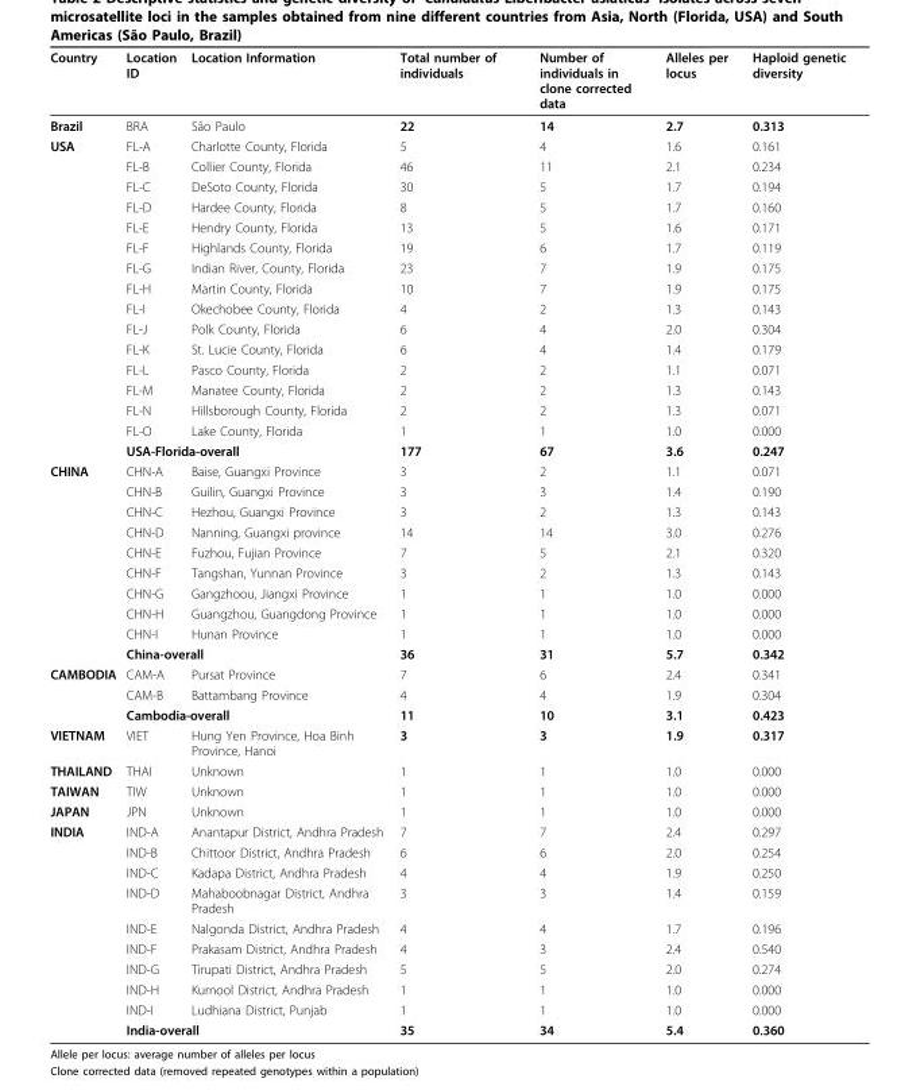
<table><thead><tr><td>Country</td><td>Location ID</td><td>Location Information</td><td>Total number of individuals</td><td>Number of individuals in clone corrected data</td><td>Alleles per locus</td><td>Haploid genetic diversity</td></tr></thead><tbody><tr><td>Brazil</td><td>BRA</td><td>São Paulo</td><td>22</td><td>14</td><td>2.7</td><td>0.313</td></tr><tr><td rowspan="16">USA</td><td>FL-A</td><td>Charlotte County, Florida</td><td>5</td><td>4</td><td>1.6</td><td>0.161</td></tr><tr><td>FL-B</td><td>Collier County, Florida</td><td>46</td><td>11</td><td>2.1</td><td>0.234</td></tr><tr><td>FL-C</td><td>DeSoto County, Florida</td><td>30</td><td>5</td><td>1.7</td><td>0.194</td></tr><tr><td>FL-D</td><td>Hardee County, Florida</td><td>8</td><td>5</td><td>1.7</td><td>0.160</td></tr><tr><td>FL-E</td><td>Hendry County, Florida</td><td>13</td><td>5</td><td>1.6</td><td>0.171</td></tr><tr><td>FL-F</td><td>Highlands County, Florida</td><td>19</td><td>6</td><td>1.7</td><td>0.119</td></tr><tr><td>FL-G</td><td>Indian River, County, Florida</td><td>23</td><td>7</td><td>1.9</td><td>0.175</td></tr><tr><td>FL-H</td><td>Martin County, Florida</td><td>10</td><td>7</td><td>1.9</td><td>0.175</td></tr><tr><td>FL-I</td><td>Okechobee County, Florida</td><td>4</td><td>2</td><td>1.3</td><td>0.143</td></tr><tr><td>FL-J</td><td>Polk County, Florida</td><td>6</td><td>4</td><td>2.0</td><td>0.304</td></tr><tr><td>FL-K</td><td>St. Lucie County, Florida</td><td>6</td><td>4</td><td>1.4</td><td>0.179</td></tr><tr><td>FL-L</td><td>Pasco County, Florida</td><td>2</td><td>2</td><td>1.1</td><td>0.071</td></tr><tr><td>FL-M</td><td>Manatee County, Florida</td><td>2</td><td>2</td><td>1.3</td><td>0.143</td></tr><tr><td>FL-N</td><td>Hillsborough County, Florida</td><td>2</td><td>2</td><td>1.3</td><td>0.071</td></tr><tr><td>FL-O</td><td>Lake County, Florida</td><td>1</td><td>1</td><td>1.0</td><td>0.000</td></tr><tr><td colspan="2">USA-Florida-overall</td><td>177</td><td>67</td><td>3.6</td><td>0.247</td></tr><tr><td rowspan="10">CHINA</td><td>CHN-A</td><td>Baise, Guangxi Province</td><td>3</td><td>2</td><td>1.1</td><td>0.071</td></tr><tr><td>CHN-B</td><td>Guilin, Guangxi Province</td><td>3</td><td>3</td><td>1.4</td><td>0.190</td></tr><tr><td>CHN-C</td><td>Hezhou, Guangxi Province</td><td>3</td><td>2</td><td>1.3</td><td>0.143</td></tr><tr><td>CHN-D</td><td>Nanning, Guangxi province</td><td>14</td><td>14</td><td>3.0</td><td>0.276</td></tr><tr><td>CHN-E</td><td>Fuzhou, Fujian Province</td><td>7</td><td>5</td><td>2.1</td><td>0.320</td></tr><tr><td>CHN-F</td><td>Tangshan, Yunnan Province</td><td>3</td><td>2</td><td>1.3</td><td>0.143</td></tr><tr><td>CHN-G</td><td>Gangzhoou, Jiangxi Province</td><td>1</td><td>1</td><td>1.0</td><td>0.000</td></tr><tr><td>CHN-H</td><td>Guangzhou, Guangdong Province</td><td>1</td><td>1</td><td>1.0</td><td>0.000</td></tr><tr><td>CHN-I</td><td>Hunan Province</td><td>1</td><td>1</td><td>1.0</td><td>0.000</td></tr><tr><td colspan="2">China-overall</td><td>36</td><td>31</td><td>5.7</td><td>0.342</td></tr><tr><td rowspan="3">CAMBODIA</td><td>CAM-A</td><td>Pursat Province</td><td>7</td><td>6</td><td>2.4</td><td>0.341</td></tr><tr><td>CAM-B</td><td>Battambang Province</td><td>4</td><td>4</td><td>1.9</td><td>0.304</td></tr><tr><td colspan="2">Cambodia-overall</td><td>11</td><td>10</td><td>3.1</td><td>0.423</td></tr><tr><td>VIETNAM</td><td>VIET</td><td>Hung Yen Province, Hoa Binh Province, Hanoi</td><td>3</td><td>3</td><td>1.9</td><td>0.317</td></tr><tr><td>THAILAND</td><td>THAI</td><td>Unknown</td><td>1</td><td>1</td><td>1.0</td><td>0.000</td></tr><tr><td>TAIWAN</td><td>TIW</td><td>Unknown</td><td>1</td><td>1</td><td>1.0</td><td>0.000</td></tr><tr><td>JAPAN</td><td>JPN</td><td>Unknown</td><td>1</td><td>1</td><td>1.0</td><td>0.000</td></tr><tr><td rowspan="10">INDIA</td><td>IND-A</td><td>Anantapur District, Andhra Pradesh</td><td>7</td><td>7</td><td>2.4</td><td>0.297</td></tr><tr><td>IND-B</td><td>Chittoor District, Andhra Pradesh</td><td>6</td><td>6</td><td>2.0</td><td>0.254</td></tr><tr><td>IND-C</td><td>Kadapa District, Andhra Pradesh</td><td>4</td><td>4</td><td>1.9</td><td>0.250</td></tr><tr><td>IND-D</td><td>Mahaboobnagar District, Andhra Pradesh</td><td>3</td><td>3</td><td>1.4</td><td>0.159</td></tr><tr><td>IND-E</td><td>Nalgonda District, Andhra Pradesh</td><td>4</td><td>4</td><td>1.7</td><td>0.196</td></tr><tr><td>IND-F</td><td>Prakasam District, Andhra Pradesh</td><td>4</td><td>3</td><td>2.4</td><td>0.540</td></tr><tr><td>IND-G</td><td>Tirupati District, Andhra Pradesh</td><td>5</td><td>5</td><td>2.0</td><td>0.274</td></tr><tr><td>IND-H</td><td>Kurnool District, Andhra Pradesh</td><td>1</td><td>1</td><td>1.0</td><td>0.000</td></tr><tr><td>IND-I</td><td>Ludhiana District, Punjab</td><td>1</td><td>1</td><td>1.0</td><td>0.000</td></tr><tr><td colspan="2">India-overall</td><td>35</td><td>34</td><td>5.4</td><td>0.360</td></tr></tbody></table>